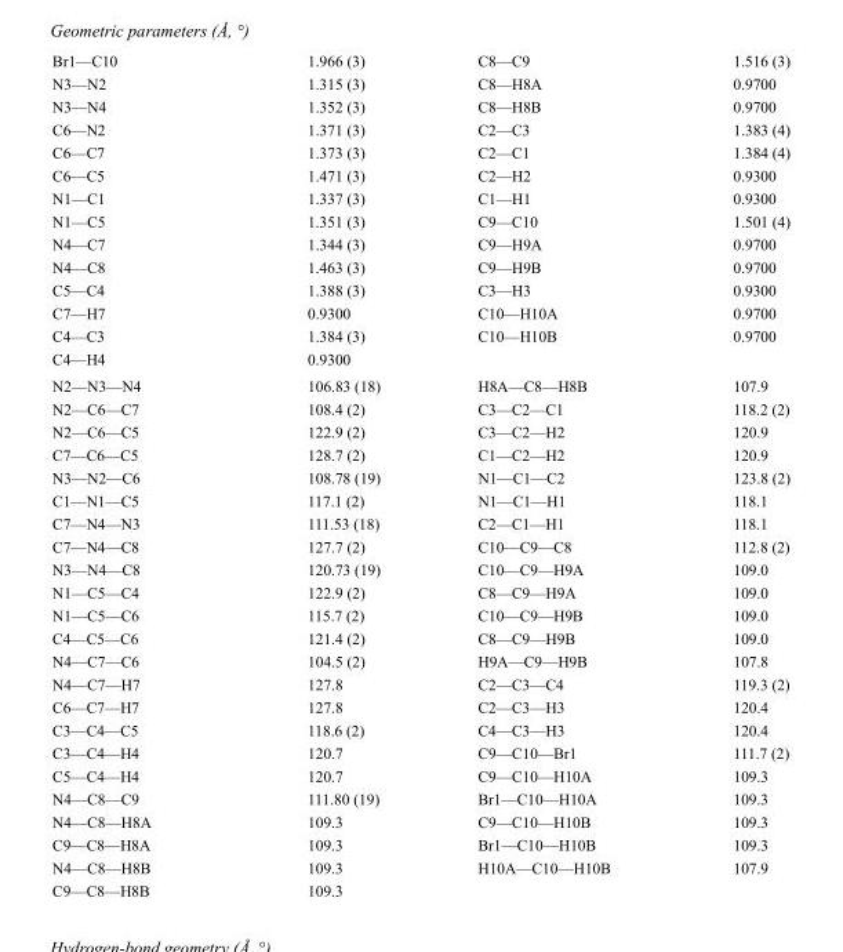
<table><tbody><tr><td>Br1—C10</td><td>1.966 (3)</td><td>C8—C9</td><td>1.516 (3)</td></tr><tr><td>N3—N2</td><td>1.315 (3)</td><td>C8—H8A</td><td>0.9700</td></tr><tr><td>N3—N4</td><td>1.352 (3)</td><td>C8—H8B</td><td>0.9700</td></tr><tr><td>C6—N2</td><td>1.371 (3)</td><td>C2—C3</td><td>1.383 (4)</td></tr><tr><td>C6—C7</td><td>1.373 (3)</td><td>C2—C1</td><td>1.384 (4)</td></tr><tr><td>C6—C5</td><td>1.471 (3)</td><td>C2—H2</td><td>0.9300</td></tr><tr><td>N1—C1</td><td>1.337 (3)</td><td>C1—H1</td><td>0.9300</td></tr><tr><td>N1—C5</td><td>1.351 (3)</td><td>C9—C10</td><td>1.501 (4)</td></tr><tr><td>N4—C7</td><td>1.344 (3)</td><td>C9—H9A</td><td>0.9700</td></tr><tr><td>N4—C8</td><td>1.463 (3)</td><td>C9—H9B</td><td>0.9700</td></tr><tr><td>C5—C4</td><td>1.388 (3)</td><td>C3—H3</td><td>0.9300</td></tr><tr><td>C7—H7</td><td>0.9300</td><td>C10—H10A</td><td>0.9700</td></tr><tr><td>C4—C3</td><td>1.384 (3)</td><td>C10—H10B</td><td>0.9700</td></tr><tr><td>C4—H4</td><td>0.9300</td><td></td><td></td></tr><tr><td>N2—N3—N4</td><td>106.83 (18)</td><td>H8A—C8—H8B</td><td>107.9</td></tr><tr><td>N2—C6—C7</td><td>108.4 (2)</td><td>C3—C2—C1</td><td>118.2 (2)</td></tr><tr><td>N2—C6—C5</td><td>122.9 (2)</td><td>C3—C2—H2</td><td>120.9</td></tr><tr><td>C7—C6—C5</td><td>128.7 (2)</td><td>C1—C2—H2</td><td>120.9</td></tr><tr><td>N3—N2—C6</td><td>108.78 (19)</td><td>N1—C1—C2</td><td>123.8 (2)</td></tr><tr><td>C1—N1—C5</td><td>117.1 (2)</td><td>N1—C1—H1</td><td>118.1</td></tr><tr><td>C7—N4—N3</td><td>111.53 (18)</td><td>C2—C1—H1</td><td>118.1</td></tr><tr><td>C7—N4—C8</td><td>127.7 (2)</td><td>C10—C9—C8</td><td>112.8 (2)</td></tr><tr><td>N3—N4—C8</td><td>120.73 (19)</td><td>C10—C9—H9A</td><td>109.0</td></tr><tr><td>N1—C5—C4</td><td>122.9 (2)</td><td>C8—C9—H9A</td><td>109.0</td></tr><tr><td>N1—C5—C6</td><td>115.7 (2)</td><td>C10—C9—H9B</td><td>109.0</td></tr><tr><td>C4—C5—C6</td><td>121.4 (2)</td><td>C8—C9—H9B</td><td>109.0</td></tr><tr><td>N4—C7—C6</td><td>104.5 (2)</td><td>H9A—C9—H9B</td><td>107.8</td></tr><tr><td>N4—C7—H7</td><td>127.8</td><td>C2—C3—C4</td><td>119.3 (2)</td></tr><tr><td>C6—C7—H7</td><td>127.8</td><td>C2—C3—H3</td><td>120.4</td></tr><tr><td>C3—C4—C5</td><td>118.6 (2)</td><td>C4—C3—H3</td><td>120.4</td></tr><tr><td>C3—C4—H4</td><td>120.7</td><td>C9—C10—Br1</td><td>111.7 (2)</td></tr><tr><td>C5—C4—H4</td><td>120.7</td><td>C9—C10—H10A</td><td>109.3</td></tr><tr><td>N4—C8—C9</td><td>111.80 (19)</td><td>Br1—C10—H10A</td><td>109.3</td></tr><tr><td>N4—C8—H8A</td><td>109.3</td><td>C9—C10—H10B</td><td>109.3</td></tr><tr><td>C9—C8—H8A</td><td>109.3</td><td>Br1—C10—H10B</td><td>109.3</td></tr><tr><td>N4—C8—H8B</td><td>109.3</td><td>H10A—C10—H10B</td><td>107.9</td></tr><tr><td>C9—C8—H8B</td><td>109.3</td><td></td><td></td></tr></tbody></table>